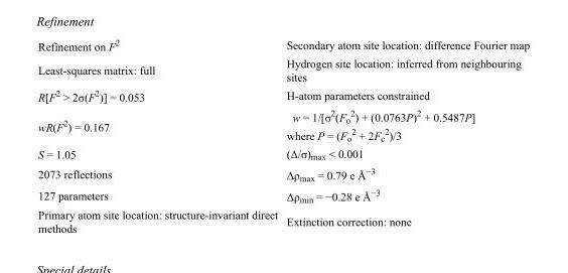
<table><tbody><tr><td>Refinement on F<sup>2</sup></td><td>Secondary atom site location: difference Fourier map</td></tr><tr><td>Least-squares matrix: full</td><td>Hydrogen site location: inferred from neighbouring sites</td></tr><tr><td>R[F<sup>2</sup> &gt; 2σ(F<sup>2</sup>)] = 0.053</td><td>H-atom parameters constrained</td></tr><tr><td>wR(F<sup>2</sup>) = 0.167</td><td>w = 1/[σ<sup>2</sup>(F<sub>o</sub> <sup>2</sup>) + (0.0763P)<sup>2</sup> + 0.5487P] where P = (F<sub>o</sub> <sup>2</sup> + 2F<sub>c</sub> <sup>2</sup>)/3</td></tr><tr><td>S = 1.05</td><td>(Δ/σ)<sub>max</sub> &lt; 0.001</td></tr><tr><td>2073 reflections</td><td>Δρ<sub>max</sub> = 0.79 e Å<sup>−3</sup></td></tr><tr><td>127 parameters</td><td>Δρ<sub>min</sub> = −0.28 e Å<sup>−3</sup></td></tr><tr><td>Primary atom site location: structure-invariant direct methods</td><td>Extinction correction: none</td></tr></tbody></table>